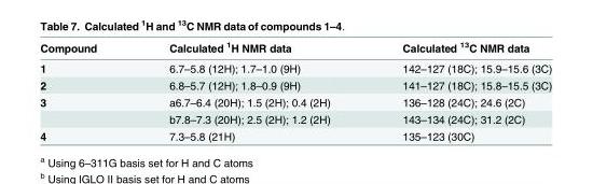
<table><thead><tr><td>Compound</td><td>Calculated <sup>1</sup>H NMR data</td><td>Calculated <sup>13</sup>C NMR data</td></tr></thead><tbody><tr><td>1</td><td>6.7–5.8 (12H); 1.7–1.0 (9H)</td><td>142–127 (18C); 15.9–15.6 (3C)</td></tr><tr><td>2</td><td>6.8–5.7 (12H); 1.8–0.9 (9H)</td><td>141–127 (18C); 15.8–15.5 (3C)</td></tr><tr><td rowspan="2">3</td><td>a6.7–6.4 (20H); 1.5 (2H); 0.4 (2H)</td><td>136–128 (24C); 24.6 (2C)</td></tr><tr><td>b7.8–7.3 (20H); 2.5 (2H); 1.2 (2H)</td><td>143–134 (24C); 31.2 (2C)</td></tr><tr><td>4</td><td>7.3–5.8 (21H)</td><td>135–123 (30C)</td></tr></tbody></table>